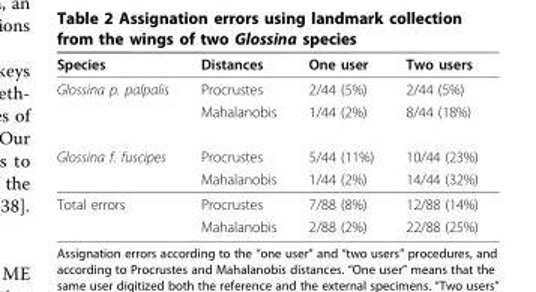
<table><thead><tr><td>Species</td><td>Distances</td><td>One user</td><td>Two users</td></tr></thead><tbody><tr><td rowspan="2">Glossina p. palpalis</td><td>Procrustes</td><td>2/44 (5%)</td><td>2/44 (5%)</td></tr><tr><td>Mahalanobis</td><td>1/44 (2%)</td><td>8/44 (18%)</td></tr><tr><td rowspan="2">Glossina f. fuscipes</td><td>Procrustes</td><td>5/44 (11%)</td><td>10/44 (23%)</td></tr><tr><td>Mahalanobis</td><td>1/44 (2%)</td><td>14/44 (32%)</td></tr><tr><td rowspan="2">Total errors</td><td>Procrustes</td><td>7/88 (8%)</td><td>12/88 (14%)</td></tr><tr><td>Mahalanobis</td><td>2/88 (2%)</td><td>22/88 (25%)</td></tr></tbody></table>